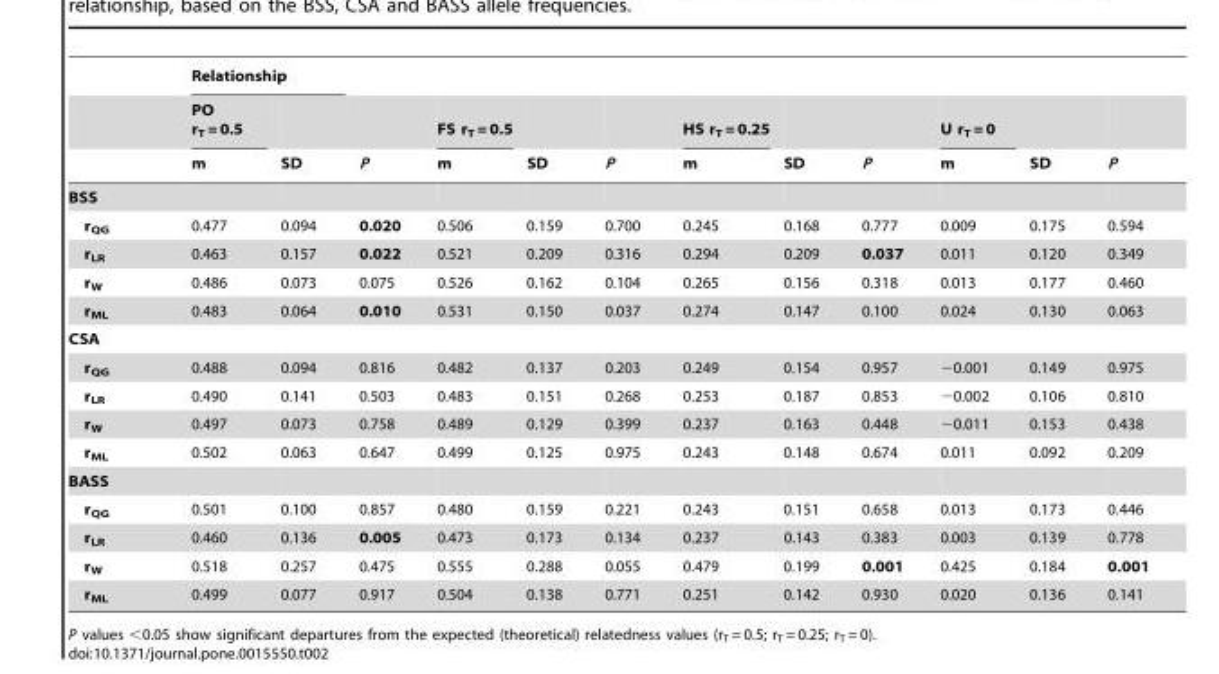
<table><thead><tr><td rowspan="3"></td><td colspan="2">Relationship</td><td rowspan="3">P</td><td rowspan="3">FS r<sub>T</sub> = 0.5 m</td><td rowspan="3">SD</td><td rowspan="3">P</td><td rowspan="3">HS r<sub>T</sub> = 0.25 m</td><td rowspan="3">SD</td><td rowspan="3">P</td><td rowspan="3">U r<sub>T</sub> = 0 m</td><td rowspan="3">SD</td><td rowspan="3">P</td></tr><tr><td rowspan="2">PO r<sub>T</sub> = 0.5 m</td><td rowspan="2">SD</td></tr><tr></tr></thead><tbody><tr><td colspan="13">BSS</td></tr><tr><td>r<sub>QG</sub></td><td>0.477</td><td>0.094</td><td>0.020</td><td>0.506</td><td>0.159</td><td>0.700</td><td>0.245</td><td>0.168</td><td>0.777</td><td>0.009</td><td>0.175</td><td>0.594</td></tr><tr><td>r<sub>LR</sub></td><td>0.463</td><td>0.157</td><td>0.022</td><td>0.521</td><td>0.209</td><td>0.316</td><td>0.294</td><td>0.209</td><td>0.037</td><td>0.011</td><td>0.120</td><td>0.349</td></tr><tr><td>r<sub>W</sub></td><td>0.486</td><td>0.073</td><td>0.075</td><td>0.526</td><td>0.162</td><td>0.104</td><td>0.265</td><td>0.156</td><td>0.318</td><td>0.013</td><td>0.177</td><td>0.460</td></tr><tr><td>r<sub>ML</sub></td><td>0.483</td><td>0.064</td><td>0.010</td><td>0.531</td><td>0.150</td><td>0.037</td><td>0.274</td><td>0.147</td><td>0.100</td><td>0.024</td><td>0.130</td><td>0.063</td></tr><tr><td colspan="13">CSA</td></tr><tr><td>r<sub>QG</sub></td><td>0.488</td><td>0.094</td><td>0.816</td><td>0.482</td><td>0.137</td><td>0.203</td><td>0.249</td><td>0.154</td><td>0.957</td><td>−0.001</td><td>0.149</td><td>0.975</td></tr><tr><td>r<sub>LR</sub></td><td>0.490</td><td>0.141</td><td>0.503</td><td>0.483</td><td>0.151</td><td>0.268</td><td>0.253</td><td>0.187</td><td>0.853</td><td>−0.002</td><td>0.106</td><td>0.810</td></tr><tr><td>r<sub>W</sub></td><td>0.497</td><td>0.073</td><td>0.758</td><td>0.489</td><td>0.129</td><td>0.399</td><td>0.237</td><td>0.163</td><td>0.448</td><td>−0.011</td><td>0.153</td><td>0.438</td></tr><tr><td>r<sub>ML</sub></td><td>0.502</td><td>0.063</td><td>0.647</td><td>0.499</td><td>0.125</td><td>0.975</td><td>0.243</td><td>0.148</td><td>0.674</td><td>0.011</td><td>0.092</td><td>0.209</td></tr><tr><td colspan="13">BASS</td></tr><tr><td>r<sub>QG</sub></td><td>0.501</td><td>0.100</td><td>0.857</td><td>0.480</td><td>0.159</td><td>0.221</td><td>0.243</td><td>0.151</td><td>0.658</td><td>0.013</td><td>0.173</td><td>0.446</td></tr><tr><td>r<sub>LR</sub></td><td>0.460</td><td>0.136</td><td>0.005</td><td>0.473</td><td>0.173</td><td>0.134</td><td>0.237</td><td>0.143</td><td>0.383</td><td>0.003</td><td>0.139</td><td>0.778</td></tr><tr><td>r<sub>W</sub></td><td>0.518</td><td>0.257</td><td>0.475</td><td>0.555</td><td>0.288</td><td>0.055</td><td>0.479</td><td>0.199</td><td>0.001</td><td>0.425</td><td>0.184</td><td>0.001</td></tr><tr><td>r<sub>ML</sub></td><td>0.499</td><td>0.077</td><td>0.917</td><td>0.504</td><td>0.138</td><td>0.771</td><td>0.251</td><td>0.142</td><td>0.930</td><td>0.020</td><td>0.136</td><td>0.141</td></tr></tbody></table>